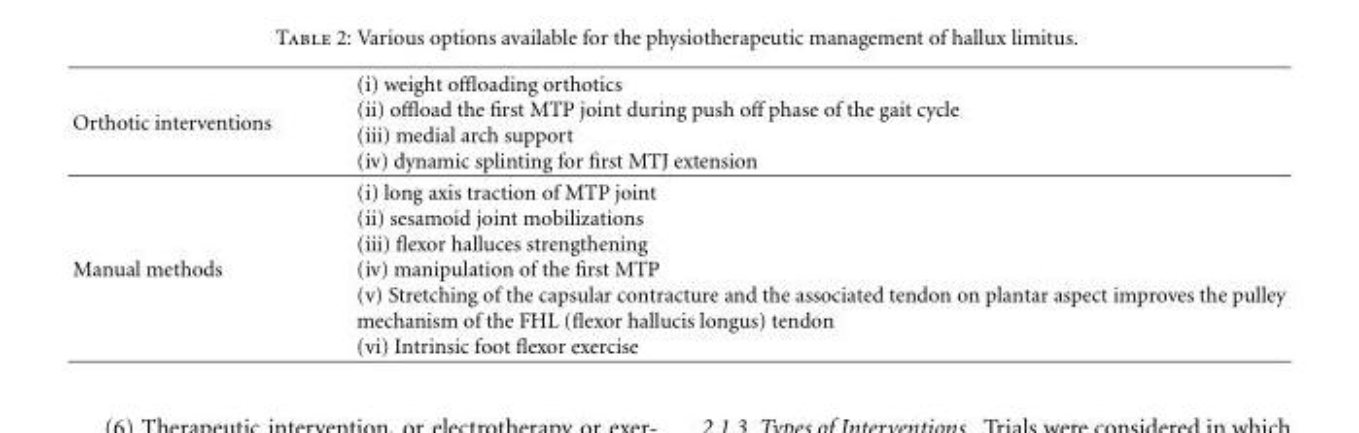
<table><tbody><tr><td>Orthotic interventions</td><td>(i) weight offloading orthotics (ii) offload the first MTP joint during push off phase of the gait cycle (iii) medial arch support (iv) dynamic splinting for first MTJ extension</td></tr><tr><td>Manual methods</td><td>(i) long axis traction of MTP joint (ii) sesamoid joint mobilizations (iii) flexor halluces strengthening (iv) manipulation of the first MTP (v) Stretching of the capsular contracture and the associated tendon on plantar aspect improves the pulley mechanism of the FHL (flexor hallucis longus) tendon (vi) Intrinsic foot flexor exercise</td></tr></tbody></table>